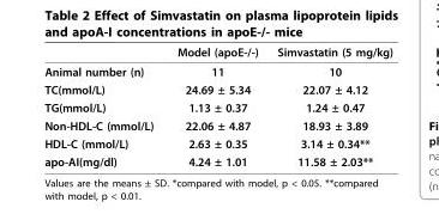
<table><thead><tr><td></td><td>Model (apoE-/-)</td><td>Simvastatin (5 mg/kg)</td></tr></thead><tbody><tr><td>Animal number (n)</td><td>11</td><td>10</td></tr><tr><td>TC(mmol/L)</td><td>24.69 ± 5.34</td><td>22.07 ± 4.12</td></tr><tr><td>TG(mmol/L)</td><td>1.13 ± 0.37</td><td>1.24 ± 0.47</td></tr><tr><td>Non-HDL-C (mmol/L)</td><td>22.06 ± 4.87</td><td>18.93 ± 3.89</td></tr><tr><td>HDL-C (mmol/L)</td><td>2.63 ± 0.35</td><td>3.14 ± 0.34**</td></tr><tr><td>apo-AI(mg/dl)</td><td>4.24 ± 1.01</td><td>11.58 ± 2.03**</td></tr></tbody></table>